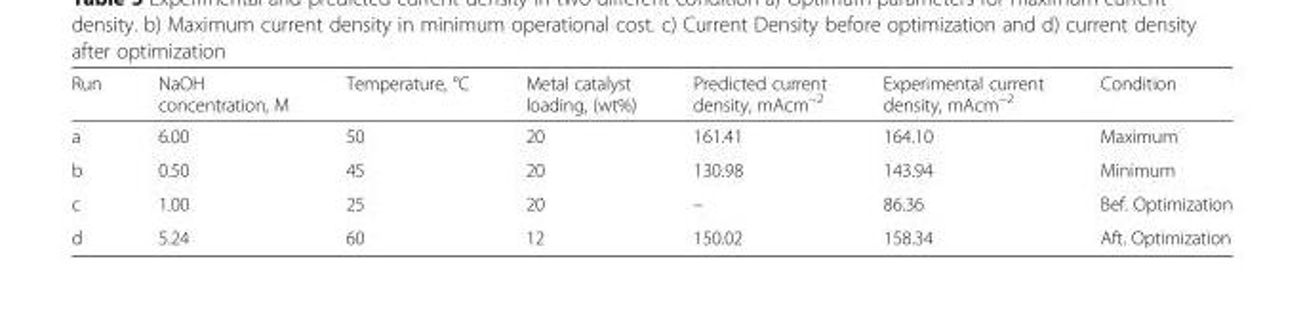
<table><thead><tr><td>Run</td><td>NaOH concentration, M</td><td>Temperature, °C</td><td>Metal catalyst loading, (wt%)</td><td>Predicted current density, mAcm<sup>−2</sup></td><td>Experimental current density, mAcm<sup>−2</sup></td><td>Condition</td></tr></thead><tbody><tr><td>a</td><td>6.00</td><td>50</td><td>20</td><td>161.41</td><td>164.10</td><td>Maximum</td></tr><tr><td>b</td><td>0.50</td><td>45</td><td>20</td><td>130.98</td><td>143.94</td><td>Minimum</td></tr><tr><td>c</td><td>1.00</td><td>25</td><td>20</td><td>–</td><td>86.36</td><td>Bef. Optimization</td></tr><tr><td>d</td><td>5.24</td><td>60</td><td>12</td><td>150.02</td><td>158.34</td><td>Aft. Optimization</td></tr></tbody></table>